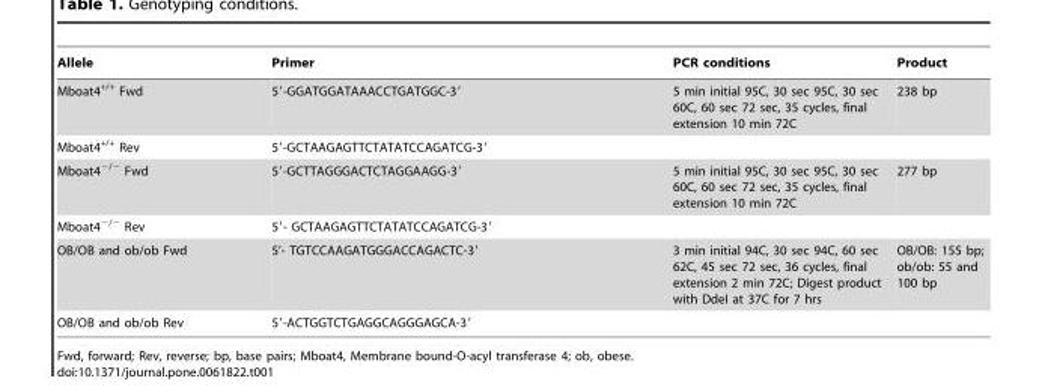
<table><thead><tr><td>Allele</td><td>Primer</td><td>PCR conditions</td><td>Product</td></tr></thead><tbody><tr><td>Mboat4<sup>+/+</sup> Fwd</td><td>5′-GGATGGATAAACCTGATGGC-3′</td><td>5 min initial 95C, 30 sec 95C, 30 sec 60C, 60 sec 72 sec, 35 cycles, final extension 10 min 72C</td><td>238 bp</td></tr><tr><td>Mboat4<sup>+/+</sup> Rev</td><td>5′-GCTAAGAGTTCTATATCCAGATCG-3′</td><td></td><td></td></tr><tr><td>Mboat4<sup>−/−</sup> Fwd</td><td>5′-GCTTAGGGACTCTAGGAAGG-3′</td><td>5 min initial 95C, 30 sec 95C, 30 sec 60C, 60 sec 72 sec, 35 cycles, final extension 10 min 72C</td><td>277 bp</td></tr><tr><td>Mboat4<sup>−/−</sup> Rev</td><td>5′- GCTAAGAGTTCTATATCCAGATCG-3′</td><td></td><td></td></tr><tr><td>OB/OB and ob/ob Fwd</td><td>5’- TGTCCAAGATGGGACCAGACTC-3′</td><td>3 min initial 94C, 30 sec 94C, 60 sec 62C, 45 sec 72 sec, 36 cycles, final extension 2 min 72C; Digest product with DdeI at 37C for 7 hrs</td><td>OB/OB: 155 bp; ob/ob: 55 and 100 bp</td></tr><tr><td>OB/OB and ob/ob Rev</td><td>5′-ACTGGTCTGAGGCAGGGAGCA-3′</td><td></td><td></td></tr></tbody></table>